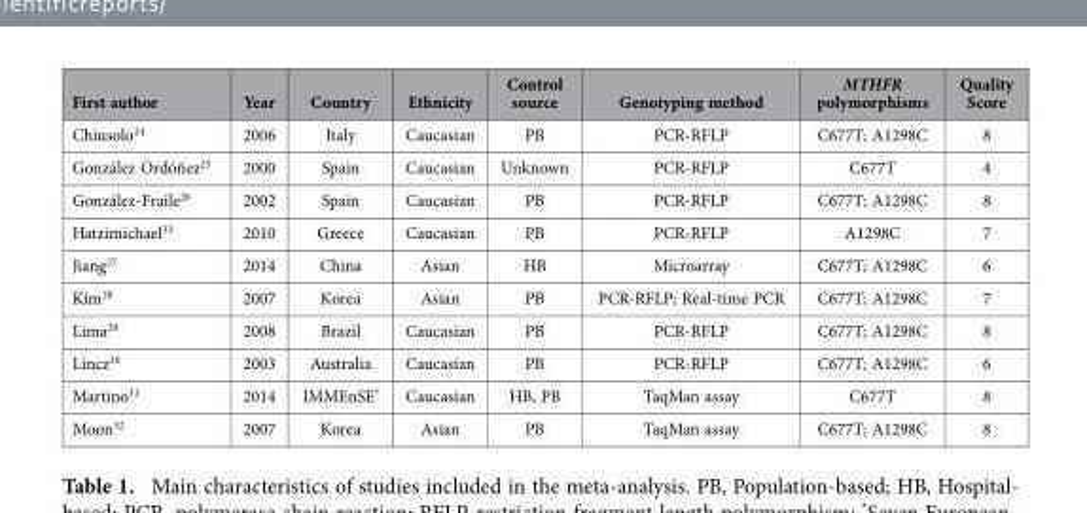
<table><thead><tr><td>First author</td><td>Year</td><td>Country</td><td>Ethnicity</td><td>Control source</td><td>Genotyping method</td><td>MTHFR polymorphisms</td><td>Quality Score</td></tr></thead><tbody><tr><td>Chiusolo<sup>24</sup></td><td>2006</td><td>Italy</td><td>Caucasian</td><td>PB</td><td>PCR-RFLP</td><td>C677T; A1298C</td><td>8</td></tr><tr><td>González Ordóñez<sup>25</sup></td><td>2000</td><td>Spain</td><td>Caucasian</td><td>Unknown</td><td>PCR-RFLP</td><td>C677T</td><td>4</td></tr><tr><td>González-Fraile<sup>26</sup></td><td>2002</td><td>Spain</td><td>Caucasian</td><td>PB</td><td>PCR-RFLP</td><td>C677T; A1298C</td><td>8</td></tr><tr><td>Hatzimichael33</td><td>2010</td><td>Greece</td><td>Caucasian</td><td>PB</td><td>PCR-RFLP</td><td>A1298C</td><td>7</td></tr><tr><td>Jiang27</td><td>2014</td><td>China</td><td>Asian</td><td>HB</td><td>Microarray</td><td>C677T; A1298C</td><td>6</td></tr><tr><td>Kim28</td><td>2007</td><td>Korea</td><td>Asian</td><td>PB</td><td>PCR-RFLP; Real-time PCR</td><td>C677T; A1298C</td><td>7</td></tr><tr><td>Lima29</td><td>2008</td><td>Brazil</td><td>Caucasian</td><td>PB</td><td>PCR-RFLP</td><td>C677T; A1298C</td><td>8</td></tr><tr><td>Lincz30</td><td>2003</td><td>Australia</td><td>Caucasian</td><td>PB</td><td>PCR-RFLP</td><td>C677T; A1298C</td><td>6</td></tr><tr><td>Martino31</td><td>2014</td><td>IMMEnSE*</td><td>Caucasian</td><td>HB, PB</td><td>TaqMan assay</td><td>C677T</td><td>8</td></tr><tr><td>Moon32</td><td>2007</td><td>Korea</td><td>Asian</td><td>PB</td><td>TaqMan assay</td><td>C677T; A1298C</td><td>8</td></tr></tbody></table>